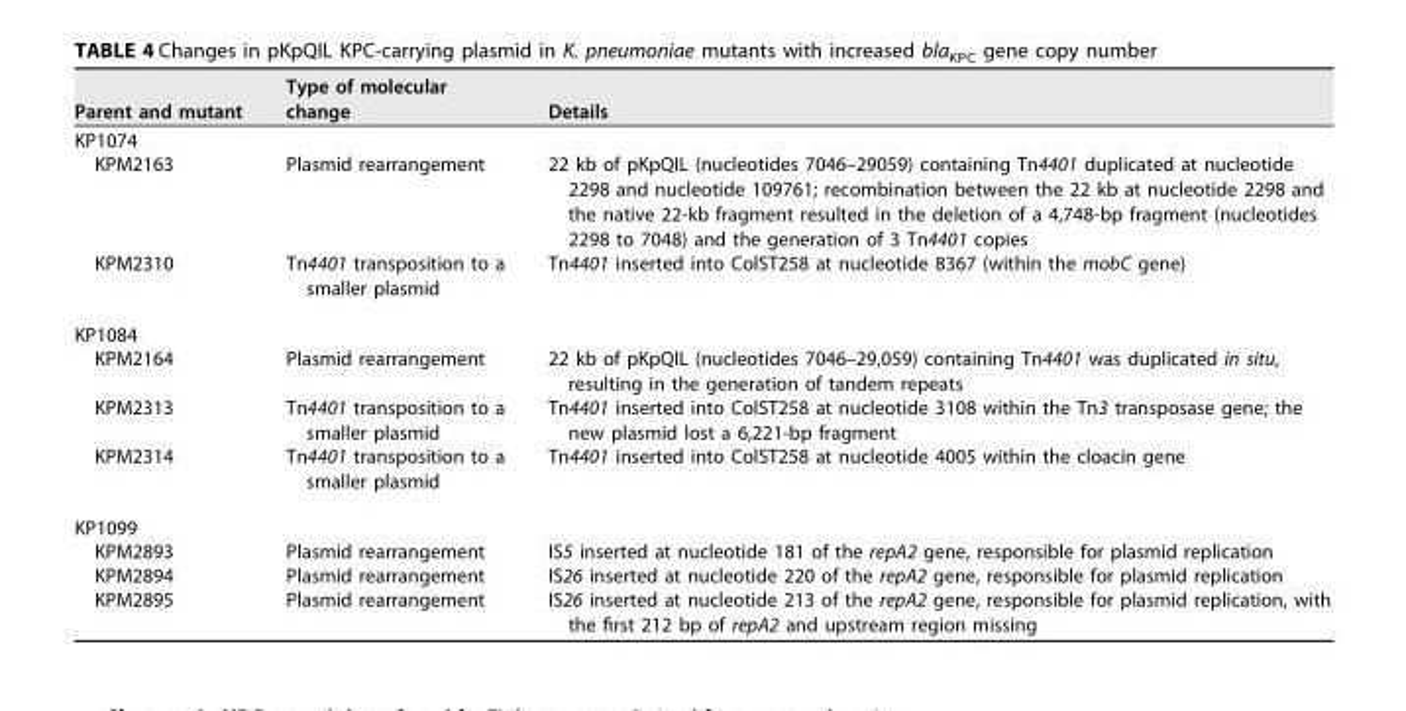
<table><thead><tr><td>Parent and mutant</td><td>Type of molecular change</td><td>Details</td></tr></thead><tbody><tr><td colspan="3">KP1074</td></tr><tr><td>KPM2163</td><td>Plasmid rearrangement</td><td>22 kb of pKpQIL (nucleotides 7046–29059) containing Tn4401 duplicated at nucleotide 2298 and nucleotide 109761; recombination between the 22 kb at nucleotide 2298 and the native 22-kb fragment resulted in the deletion of a 4,748-bp fragment (nucleotides 2298 to 7048) and the generation of 3 Tn4401 copies</td></tr><tr><td>KPM2310</td><td>Tn4401 transposition to a smaller plasmid</td><td>Tn4401 inserted into ColST258 at nucleotide 8367 (within the mobC gene)</td></tr><tr><td colspan="3">KP1084</td></tr><tr><td>KPM2164</td><td>Plasmid rearrangement</td><td>22 kb of pKpQIL (nucleotides 7046–29,059) containing Tn4401 was duplicated in situ, resulting in the generation of tandem repeats</td></tr><tr><td>KPM2313</td><td>Tn4401 transposition to a smaller plasmid</td><td>Tn4401 inserted into ColST258 at nucleotide 3108 within the Tn3 transposase gene; the new plasmid lost a 6,221-bp fragment</td></tr><tr><td>KPM2314</td><td>Tn4401 transposition to a smaller plasmid</td><td>Tn4401 inserted into ColST258 at nucleotide 4005 within the cloacin gene</td></tr><tr><td colspan="3">KP1099</td></tr><tr><td>KPM2893</td><td>Plasmid rearrangement</td><td>IS5 inserted at nucleotide 181 of the repA2 gene, responsible for plasmid replication</td></tr><tr><td>KPM2894</td><td>Plasmid rearrangement</td><td>IS26 inserted at nucleotide 220 of the repA2 gene, responsible for plasmid replication</td></tr><tr><td>KPM2895</td><td>Plasmid rearrangement</td><td>IS26 inserted at nucleotide 213 of the repA2 gene, responsible for plasmid replication, with the first 212 bp of repA2 and upstream region missing</td></tr></tbody></table>